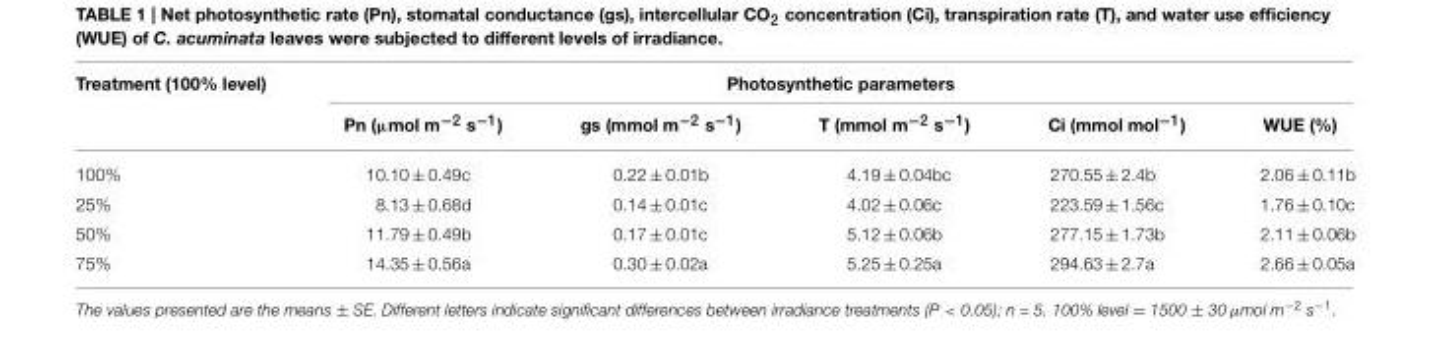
<table><thead><tr><td rowspan="2">Treatment (100% level)</td><td colspan="5">Photosynthetic parameters</td></tr><tr><td>Pn (µmol m<sup>−2</sup> s<sup>−1</sup>)</td><td>gs (mmol m<sup>−2</sup> s<sup>−1</sup>)</td><td>T (mmol m<sup>−2</sup> s<sup>−1</sup>)</td><td>Ci (mmol mol<sup>−1</sup>)</td><td>WUE (%)</td></tr></thead><tbody><tr><td>100%</td><td>10.10 ± 0.49c</td><td>0.22 ± 0.01b</td><td>4.19 ± 0.04bc</td><td>270.55 ± 2.4b</td><td>2.06 ± 0.11b</td></tr><tr><td>25%</td><td>8.13 ± 0.68d</td><td>0.14 ± 0.01c</td><td>4.02 ± 0.06c</td><td>223.59 ± 1.56c</td><td>1.76 ± 0.10c</td></tr><tr><td>50%</td><td>11.79 ± 0.49b</td><td>0.17 ± 0.01c</td><td>5.12 ± 0.06b</td><td>277.15 ± 1.73b</td><td>2.11 ± 0.06b</td></tr><tr><td>75%</td><td>14.35 ± 0.56a</td><td>0.30 ± 0.02a</td><td>5.25 ± 0.25a</td><td>294.63 ± 2.7a</td><td>2.66 ± 0.05a</td></tr></tbody></table>